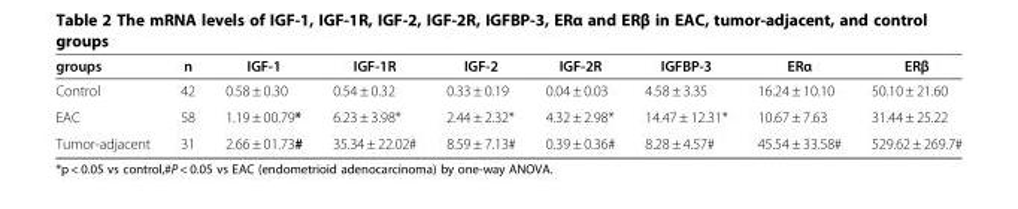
<table><thead><tr><td>groups</td><td>n</td><td>IGF-1</td><td>IGF-1R</td><td>IGF-2</td><td>IGF-2R</td><td>IGFBP-3</td><td>ERα</td><td>ERβ</td></tr></thead><tbody><tr><td>Control</td><td>42</td><td>0.58 ± 0.30</td><td>0.54 ± 0.32</td><td>0.33 ± 0.19</td><td>0.04 ± 0.03</td><td>4.58 ± 3.35</td><td>16.24 ± 10.10</td><td>50.10 ± 21.60</td></tr><tr><td>EAC</td><td>58</td><td>1.19 ± 00.79*</td><td>6.23 ± 3.98*</td><td>2.44 ± 2.32*</td><td>4.32 ± 2.98*</td><td>14.47 ± 12.31*</td><td>10.67 ± 7.63</td><td>31.44 ± 25.22</td></tr><tr><td>Tumor-adjacent</td><td>31</td><td>2.66 ± 01.73#</td><td>35.34 ± 22.02#</td><td>8.59 ± 7.13#</td><td>0.39 ± 0.36#</td><td>8.28 ± 4.57#</td><td>45.54 ± 33.58#</td><td>529.62 ± 269.7#</td></tr></tbody></table>